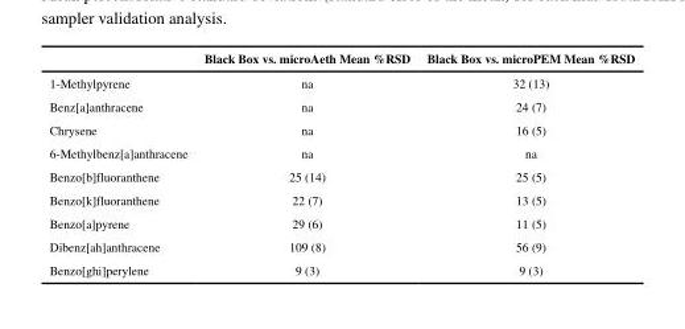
<table><thead><tr><td></td><td>Black Box vs. microAeth Mean %RSD</td><td>Black Box vs. microPEM Mean %RSD</td></tr></thead><tbody><tr><td>1-Methylpyrene</td><td>na</td><td>32 (13)</td></tr><tr><td>Benz[a]anthracene</td><td>na</td><td>24 (7)</td></tr><tr><td>Chrysene</td><td>na</td><td>16 (5)</td></tr><tr><td>6-Methylbenz[a]anthracene</td><td>na</td><td>na</td></tr><tr><td>Benzo[b]fluoranthene</td><td>25 (14)</td><td>25 (5)</td></tr><tr><td>Benzo[k]fluoranthene</td><td>22 (7)</td><td>13 (5)</td></tr><tr><td>Benzo[a]pyrene</td><td>29 (6)</td><td>11 (5)</td></tr><tr><td>Dibenz[ah]anthracene</td><td>109 (8)</td><td>56 (9)</td></tr><tr><td>Benzo[ghi]perylene</td><td>9 (3)</td><td>9 (3)</td></tr></tbody></table>